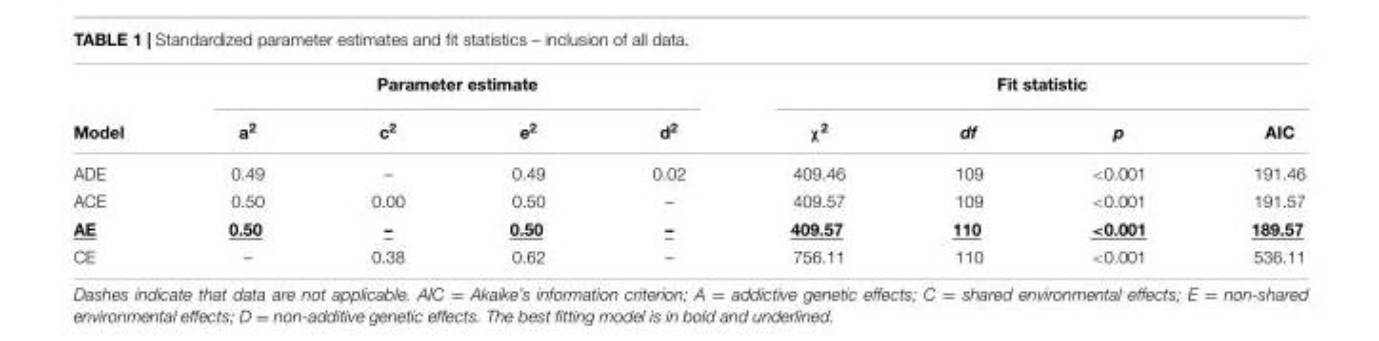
<table><thead><tr><td rowspan="2">Model</td><td colspan="4">Parameter estimate</td><td colspan="4">Fit statistic</td></tr><tr><td>a<sup>2</sup></td><td>c<sup>2</sup></td><td>e<sup>2</sup></td><td>d<sup>2</sup></td><td>χ<sup>2</sup></td><td>df</td><td>p</td><td>AIC</td></tr></thead><tbody><tr><td>ADE</td><td>0.49</td><td>–</td><td>0.49</td><td>0.02</td><td>409.46</td><td>109</td><td>&lt;0.001</td><td>191.46</td></tr><tr><td>ACE</td><td>0.50</td><td>0.00</td><td>0.50</td><td>–</td><td>409.57</td><td>109</td><td>&lt;0.001</td><td>191.57</td></tr><tr><td>AE</td><td>0.50</td><td>–</td><td>0.50</td><td>–</td><td>409.57</td><td>110</td><td>&lt;0.001</td><td>189.57</td></tr><tr><td>CE</td><td>–</td><td>0.38</td><td>0.62</td><td>–</td><td>756.11</td><td>110</td><td>&lt;0.001</td><td>536.11</td></tr></tbody></table>